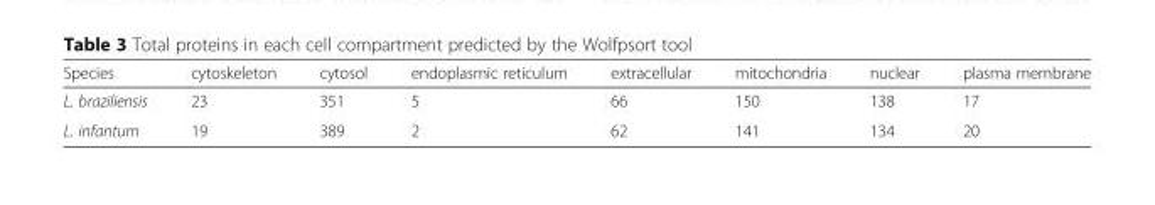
<table><thead><tr><td>Species</td><td>cytoskeleton</td><td>cytosol</td><td>endoplasmic reticulum</td><td>extracellular</td><td>mitochondria</td><td>nuclear</td><td>plasma membrane</td></tr></thead><tbody><tr><td>L. braziliensis</td><td>23</td><td>351</td><td>5</td><td>66</td><td>150</td><td>138</td><td>17</td></tr><tr><td>L. infantum</td><td>19</td><td>389</td><td>2</td><td>62</td><td>141</td><td>134</td><td>20</td></tr></tbody></table>